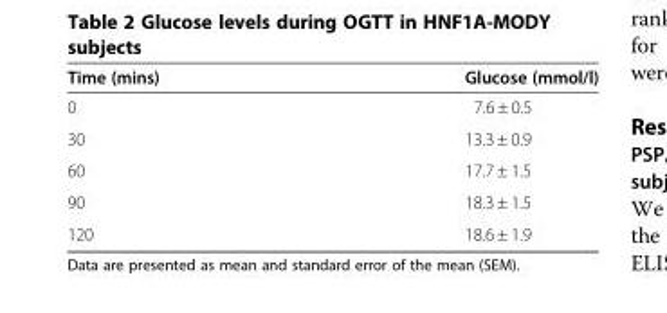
<table><thead><tr><td>Time (mins)</td><td>Glucose (mmol/l)</td></tr></thead><tbody><tr><td>0</td><td>7.6 ± 0.5</td></tr><tr><td>30</td><td>13.3 ± 0.9</td></tr><tr><td>60</td><td>17.7 ± 1.5</td></tr><tr><td>90</td><td>18.3 ± 1.5</td></tr><tr><td>120</td><td>18.6 ± 1.9</td></tr></tbody></table>